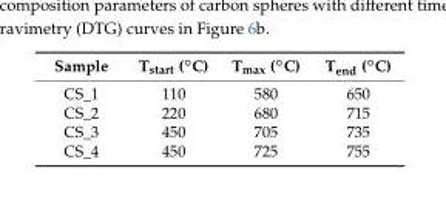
<table><thead><tr><td>Sample</td><td>Tstart (◦C)</td><td>Tmax (◦C)</td><td>Tend (◦C)</td></tr></thead><tbody><tr><td>CS_1</td><td>110</td><td>580</td><td>650</td></tr><tr><td>CS_2</td><td>220</td><td>680</td><td>715</td></tr><tr><td>CS_3</td><td>450</td><td>705</td><td>735</td></tr><tr><td>CS_4</td><td>450</td><td>725</td><td>755</td></tr></tbody></table>